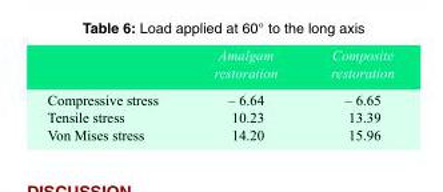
<table><thead><tr><td></td><td>Amalgam restoration</td><td>Composite restoration</td></tr></thead><tbody><tr><td>Compressive stress</td><td>– 6.64</td><td>– 6.65</td></tr><tr><td>Tensile stress</td><td>10.23</td><td>13.39</td></tr><tr><td>Von Mises stress</td><td>14.20</td><td>15.96</td></tr></tbody></table>